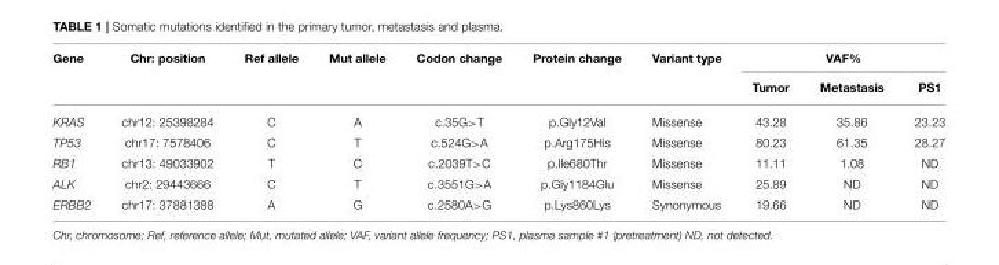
<table><thead><tr><td rowspan="2">Gene</td><td rowspan="2">Chr: position</td><td rowspan="2">Ref allele</td><td rowspan="2">Mut allele</td><td rowspan="2">Codon change</td><td rowspan="2">Protein change</td><td rowspan="2">Variant type</td><td colspan="3">VAF%</td></tr><tr><td>Tumor</td><td>Metastasis</td><td>PS1</td></tr></thead><tbody><tr><td>KRAS</td><td>chr12: 25398284</td><td>C</td><td>A</td><td>c.35G&gt;T</td><td>p.Gly12Val</td><td>Missense</td><td>43.28</td><td>35.86</td><td>23.23</td></tr><tr><td>TP53</td><td>chr17: 7578406</td><td>C</td><td>T</td><td>c.524G&gt;A</td><td>p.Arg175His</td><td>Missense</td><td>80.23</td><td>61.35</td><td>28.27</td></tr><tr><td>RB1</td><td>chr13: 49033902</td><td>T</td><td>C</td><td>c.2039T&gt;C</td><td>p.Ile680Thr</td><td>Missense</td><td>11.11</td><td>1.08</td><td>ND</td></tr><tr><td>ALK</td><td>chr2: 29443666</td><td>C</td><td>T</td><td>c.3551G&gt;A</td><td>p.Gly1184Glu</td><td>Missense</td><td>25.89</td><td>ND</td><td>ND</td></tr><tr><td>ERBB2</td><td>chr17: 37881388</td><td>A</td><td>G</td><td>c.2580A&gt;G</td><td>p.Lys860Lys</td><td>Synonymous</td><td>19.66</td><td>ND</td><td>ND</td></tr></tbody></table>